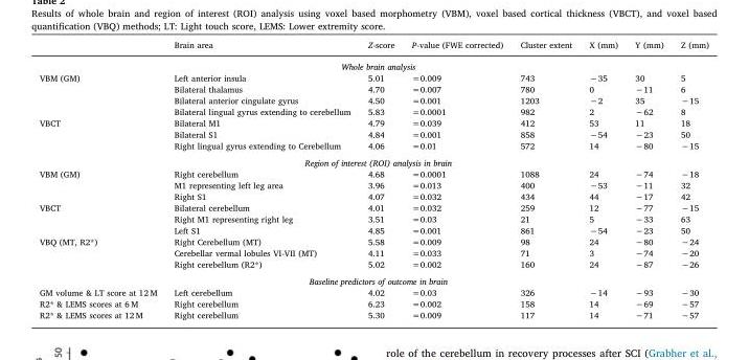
<table><thead><tr><td></td><td>Brain area</td><td>Z-score</td><td>P-value (FWE corrected)</td><td>Cluster extent</td><td>X (mm)</td><td>Y (mm)</td><td>Z (mm)</td></tr></thead><tbody><tr><td colspan="8">Whole brain analysis</td></tr><tr><td rowspan="4">VBM (GM)</td><td>Left anterior insula</td><td>5.01</td><td>=0.009</td><td>743</td><td>−35</td><td>30</td><td>5</td></tr><tr><td>Bilateral thalamus</td><td>4.70</td><td>=0.007</td><td>780</td><td>0</td><td>−11</td><td>6</td></tr><tr><td>Bilateral anterior cingulate gyrus</td><td>4.50</td><td>=0.001</td><td>1203</td><td>−2</td><td>35</td><td>−15</td></tr><tr><td>Bilateral lingual gyrus extending to cerebellum</td><td>5.83</td><td>=0.0001</td><td>982</td><td>2</td><td>−62</td><td>8</td></tr><tr><td rowspan="3">VBCT</td><td>Bilateral M1</td><td>4.79</td><td>=0.039</td><td>412</td><td>53</td><td>11</td><td>18</td></tr><tr><td>Bilateral S1</td><td>4.84</td><td>=0.001</td><td>858</td><td>−54</td><td>−23</td><td>50</td></tr><tr><td>Right lingual gyrus extending to Cerebellum</td><td>4.06</td><td>=0.01</td><td>572</td><td>14</td><td>−80</td><td>−15</td></tr><tr><td colspan="8">Region of interest (ROI) analysis in brain</td></tr><tr><td rowspan="3">VBM (GM)</td><td>Right cerebellum</td><td>4.68</td><td>=0.0001</td><td>1088</td><td>24</td><td>−74</td><td>−18</td></tr><tr><td>M1 representing left leg area</td><td>3.96</td><td>=0.013</td><td>400</td><td>−53</td><td>−11</td><td>32</td></tr><tr><td>Right S1</td><td>4.07</td><td>=0.032</td><td>434</td><td>44</td><td>−17</td><td>42</td></tr><tr><td rowspan="3">VBCT</td><td>Bilateral cerebellum</td><td>4.01</td><td>=0.032</td><td>259</td><td>12</td><td>−77</td><td>−15</td></tr><tr><td>Right M1 representing right leg</td><td>3.51</td><td>=0.03</td><td>21</td><td>5</td><td>−33</td><td>63</td></tr><tr><td>Left S1</td><td>4.85</td><td>=0.001</td><td>861</td><td>−54</td><td>−23</td><td>50</td></tr><tr><td rowspan="3">VBQ (MT, R2*)</td><td>Right Cerebellum (MT)</td><td>5.58</td><td>=0.009</td><td>98</td><td>24</td><td>−80</td><td>−24</td></tr><tr><td>Cerebellar vermal lobules VI-VII (MT)</td><td>4.11</td><td>=0.033</td><td>71</td><td>3</td><td>−74</td><td>−20</td></tr><tr><td>Right cerebellum (R2*)</td><td>5.02</td><td>=0.002</td><td>160</td><td>24</td><td>−87</td><td>−26</td></tr><tr><td colspan="8">Baseline predictors of outcome in brain</td></tr><tr><td>GM volume &amp; LT score at 12 M</td><td>Left cerebellum</td><td>4.02</td><td>=0.03</td><td>326</td><td>−14</td><td>−93</td><td>−30</td></tr><tr><td>R2* &amp; LEMS scores at 6 M</td><td>Right cerebellum</td><td>6.23</td><td>=0.002</td><td>158</td><td>14</td><td>−69</td><td>−57</td></tr><tr><td>R2* &amp; LEMS scores at 12 M</td><td>Right cerebellum</td><td>5.30</td><td>=0.009</td><td>117</td><td>14</td><td>−71</td><td>−57</td></tr></tbody></table>